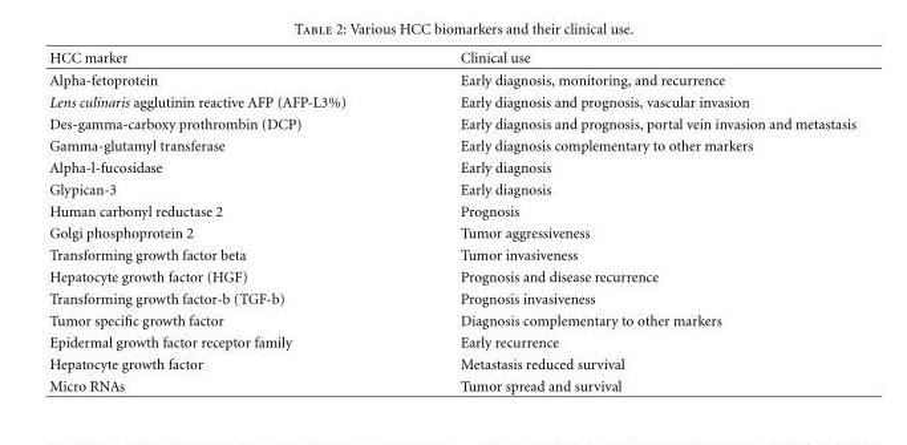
<table><thead><tr><td>HCC marker</td><td>Clinical use</td></tr></thead><tbody><tr><td>Alpha-fetoprotein</td><td>Early diagnosis, monitoring, and recurrence</td></tr><tr><td>Lens culinaris agglutinin reactive AFP (AFP-L3%)</td><td>Early diagnosis and prognosis, vascular invasion</td></tr><tr><td>Des-gamma-carboxy prothrombin (DCP)</td><td>Early diagnosis and prognosis, portal vein invasion and metastasis</td></tr><tr><td>Gamma-glutamyl transferase</td><td>Early diagnosis complementary to other markers</td></tr><tr><td>Alpha-l-fucosidase</td><td>Early diagnosis</td></tr><tr><td>Glypican-3</td><td>Early diagnosis</td></tr><tr><td>Human carbonyl reductase 2</td><td>Prognosis</td></tr><tr><td>Golgi phosphoprotein 2</td><td>Tumor aggressiveness</td></tr><tr><td>Transforming growth factor beta</td><td>Tumor invasiveness</td></tr><tr><td>Hepatocyte growth factor (HGF)</td><td>Prognosis and disease recurrence</td></tr><tr><td>Transforming growth factor-b (TGF-b)</td><td>Prognosis invasiveness</td></tr><tr><td>Tumor specific growth factor</td><td>Diagnosis complementary to other markers</td></tr><tr><td>Epidermal growth factor receptor family</td><td>Early recurrence</td></tr><tr><td>Hepatocyte growth factor</td><td>Metastasis reduced survival</td></tr><tr><td>Micro RNAs</td><td>Tumor spread and survival</td></tr></tbody></table>